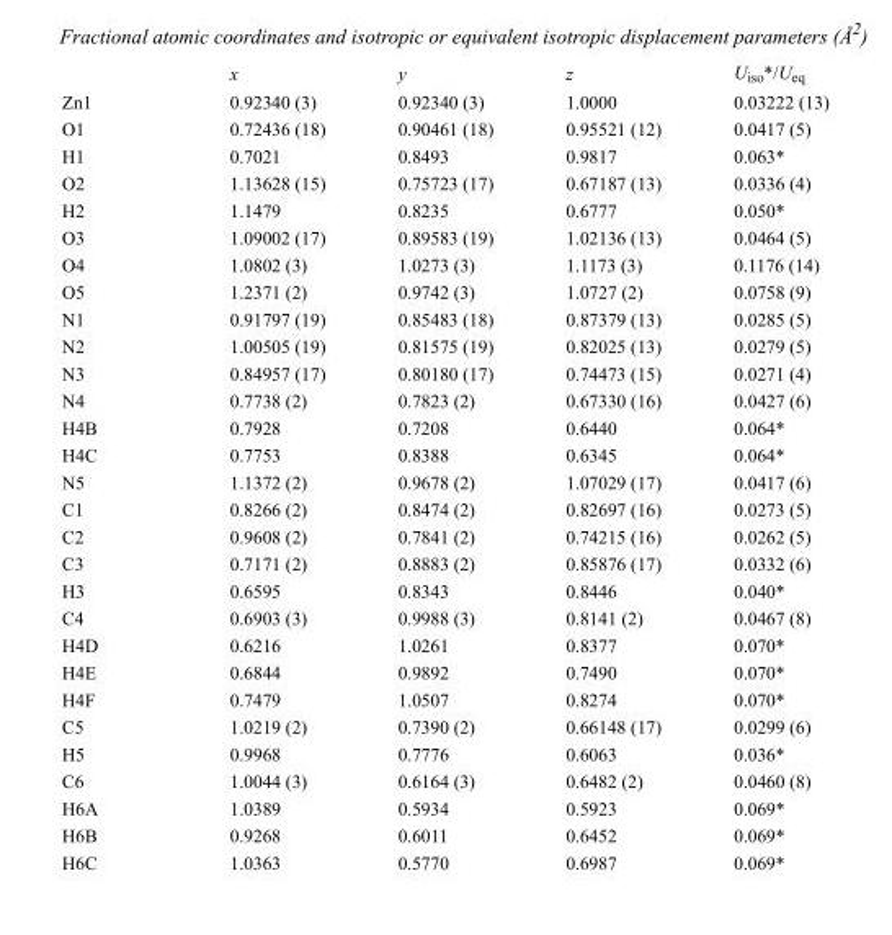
<table><thead><tr><td></td><td>x</td><td>y</td><td>z</td><td>U<sub>iso</sub>*/U<sub>eq</sub></td></tr></thead><tbody><tr><td>Zn1</td><td>0.92340 (3)</td><td>0.92340 (3)</td><td>1.0000</td><td>0.03222 (13)</td></tr><tr><td>O1</td><td>0.72436 (18)</td><td>0.90461 (18)</td><td>0.95521 (12)</td><td>0.0417 (5)</td></tr><tr><td>H1</td><td>0.7021</td><td>0.8493</td><td>0.9817</td><td>0.063*</td></tr><tr><td>O2</td><td>1.13628 (15)</td><td>0.75723 (17)</td><td>0.67187 (13)</td><td>0.0336 (4)</td></tr><tr><td>H2</td><td>1.1479</td><td>0.8235</td><td>0.6777</td><td>0.050*</td></tr><tr><td>O3</td><td>1.09002 (17)</td><td>0.89583 (19)</td><td>1.02136 (13)</td><td>0.0464 (5)</td></tr><tr><td>O4</td><td>1.0802 (3)</td><td>1.0273 (3)</td><td>1.1173 (3)</td><td>0.1176 (14)</td></tr><tr><td>O5</td><td>1.2371 (2)</td><td>0.9742 (3)</td><td>1.0727 (2)</td><td>0.0758 (9)</td></tr><tr><td>N1</td><td>0.91797 (19)</td><td>0.85483 (18)</td><td>0.87379 (13)</td><td>0.0285 (5)</td></tr><tr><td>N2</td><td>1.00505 (19)</td><td>0.81575 (19)</td><td>0.82025 (13)</td><td>0.0279 (5)</td></tr><tr><td>N3</td><td>0.84957 (17)</td><td>0.80180 (17)</td><td>0.74473 (15)</td><td>0.0271 (4)</td></tr><tr><td>N4</td><td>0.7738 (2)</td><td>0.7823 (2)</td><td>0.67330 (16)</td><td>0.0427 (6)</td></tr><tr><td>H4B</td><td>0.7928</td><td>0.7208</td><td>0.6440</td><td>0.064*</td></tr><tr><td>H4C</td><td>0.7753</td><td>0.8388</td><td>0.6345</td><td>0.064*</td></tr><tr><td>N5</td><td>1.1372 (2)</td><td>0.9678 (2)</td><td>1.07029 (17)</td><td>0.0417 (6)</td></tr><tr><td>C1</td><td>0.8266 (2)</td><td>0.8474 (2)</td><td>0.82697 (16)</td><td>0.0273 (5)</td></tr><tr><td>C2</td><td>0.9608 (2)</td><td>0.7841 (2)</td><td>0.74215 (16)</td><td>0.0262 (5)</td></tr><tr><td>C3</td><td>0.7171 (2)</td><td>0.8883 (2)</td><td>0.85876 (17)</td><td>0.0332 (6)</td></tr><tr><td>H3</td><td>0.6595</td><td>0.8343</td><td>0.8446</td><td>0.040*</td></tr><tr><td>C4</td><td>0.6903 (3)</td><td>0.9988 (3)</td><td>0.8141 (2)</td><td>0.0467 (8)</td></tr><tr><td>H4D</td><td>0.6216</td><td>1.0261</td><td>0.8377</td><td>0.070*</td></tr><tr><td>H4E</td><td>0.6844</td><td>0.9892</td><td>0.7490</td><td>0.070*</td></tr><tr><td>H4F</td><td>0.7479</td><td>1.0507</td><td>0.8274</td><td>0.070*</td></tr><tr><td>C5</td><td>1.0219 (2)</td><td>0.7390 (2)</td><td>0.66148 (17)</td><td>0.0299 (6)</td></tr><tr><td>H5</td><td>0.9968</td><td>0.7776</td><td>0.6063</td><td>0.036*</td></tr><tr><td>C6</td><td>1.0044 (3)</td><td>0.6164 (3)</td><td>0.6482 (2)</td><td>0.0460 (8)</td></tr><tr><td>H6A</td><td>1.0389</td><td>0.5934</td><td>0.5923</td><td>0.069*</td></tr><tr><td>H6B</td><td>0.9268</td><td>0.6011</td><td>0.6452</td><td>0.069*</td></tr><tr><td>H6C</td><td>1.0363</td><td>0.5770</td><td>0.6987</td><td>0.069*</td></tr></tbody></table>